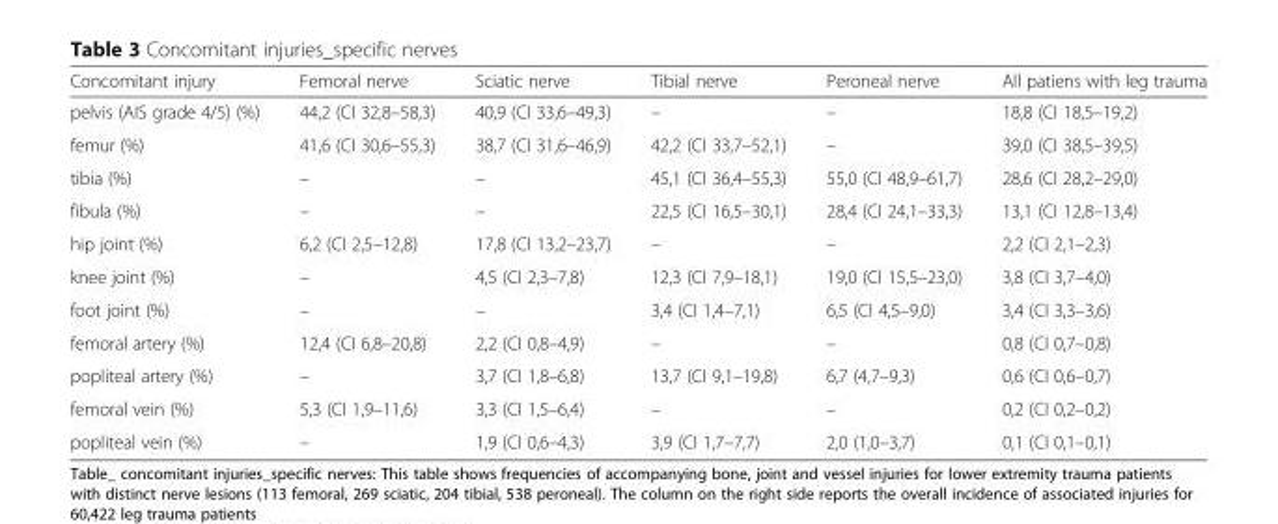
<table><thead><tr><td>Concomitant injury</td><td>Femoral nerve</td><td>Sciatic nerve</td><td>Tibial nerve</td><td>Peroneal nerve</td><td>All patiens with leg trauma</td></tr></thead><tbody><tr><td>pelvis (AIS grade 4/5) (%)</td><td>44,2 (CI 32,8–58,3)</td><td>40,9 (CI 33,6–49,3)</td><td>–</td><td>–</td><td>18,8 (CI 18,5–19,2)</td></tr><tr><td>femur (%)</td><td>41,6 (CI 30,6–55,3)</td><td>38,7 (CI 31,6–46,9)</td><td>42,2 (CI 33,7–52,1)</td><td>–</td><td>39,0 (CI 38,5–39,5)</td></tr><tr><td>tibia (%)</td><td>–</td><td>–</td><td>45,1 (CI 36,4–55,3)</td><td>55,0 (CI 48,9–61,7)</td><td>28,6 (CI 28,2–29,0)</td></tr><tr><td>fibula (%)</td><td>–</td><td>–</td><td>22,5 (CI 16,5–30,1)</td><td>28,4 (CI 24,1–33,3)</td><td>13,1 (CI 12,8–13,4)</td></tr><tr><td>hip joint (%)</td><td>6,2 (CI 2,5–12,8)</td><td>17,8 (CI 13,2–23,7)</td><td>–</td><td>–</td><td>2,2 (CI 2,1–2,3)</td></tr><tr><td>knee joint (%)</td><td>–</td><td>4,5 (CI 2,3–7,8)</td><td>12,3 (CI 7,9–18,1)</td><td>19,0 (CI 15,5–23,0)</td><td>3,8 (CI 3,7–4,0)</td></tr><tr><td>foot joint (%)</td><td>–</td><td>–</td><td>3,4 (CI 1,4–7,1)</td><td>6,5 (CI 4,5–9,0)</td><td>3,4 (CI 3,3–3,6)</td></tr><tr><td>femoral artery (%)</td><td>12,4 (CI 6,8–20,8)</td><td>2,2 (CI 0,8–4,9)</td><td>–</td><td>–</td><td>0,8 (CI 0,7–0,8)</td></tr><tr><td>popliteal artery (%)</td><td>–</td><td>3,7 (CI 1,8–6,8)</td><td>13,7 (CI 9,1–19,8)</td><td>6,7 (4,7–9,3)</td><td>0,6 (CI 0,6–0,7)</td></tr><tr><td>femoral vein (%)</td><td>5,3 (CI 1,9–11,6)</td><td>3,3 (CI 1,5–6,4)</td><td>–</td><td>–</td><td>0,2 (CI 0,2–0,2)</td></tr><tr><td>popliteal vein (%)</td><td>–</td><td>1,9 (CI 0,6–4,3)</td><td>3,9 (CI 1,7–7,7)</td><td>2,0 (1,0–3,7)</td><td>0,1 (CI 0,1–0,1)</td></tr></tbody></table>